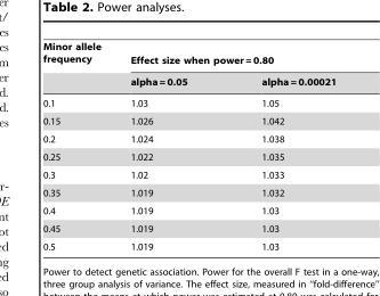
<table><thead><tr><td rowspan="2">Minor allele frequency</td><td colspan="2">Effect size when power = 0.80</td></tr><tr><td>alpha = 0.05</td><td>alpha = 0.00021</td></tr></thead><tbody><tr><td>0.1</td><td>1.03</td><td>1.05</td></tr><tr><td>0.15</td><td>1.026</td><td>1.042</td></tr><tr><td>0.2</td><td>1.024</td><td>1.038</td></tr><tr><td>0.25</td><td>1.022</td><td>1.035</td></tr><tr><td>0.3</td><td>1.02</td><td>1.033</td></tr><tr><td>0.35</td><td>1.019</td><td>1.032</td></tr><tr><td>0.4</td><td>1.019</td><td>1.03</td></tr><tr><td>0.45</td><td>1.019</td><td>1.03</td></tr><tr><td>0.5</td><td>1.019</td><td>1.03</td></tr></tbody></table>